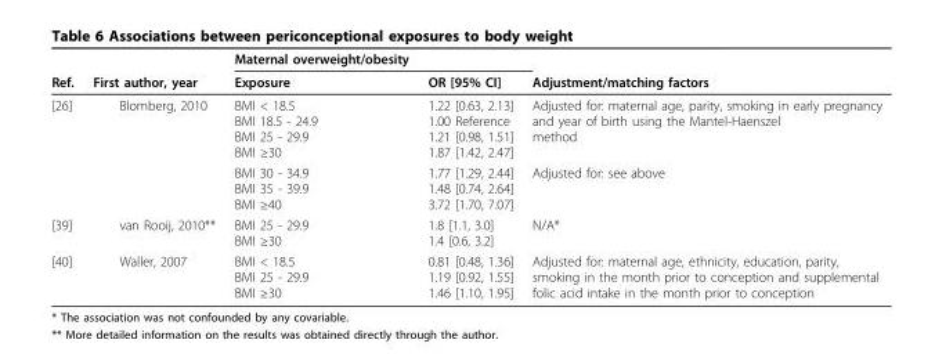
<table><thead><tr><td rowspan="2">Ref.</td><td rowspan="2">First author, year</td><td rowspan="2">Maternal overweight/obesity Exposure</td><td rowspan="2">OR [95% CI]</td><td rowspan="2">Adjustment/matching factors</td></tr><tr></tr></thead><tbody><tr><td rowspan="2">[26]</td><td>Blomberg, 2010</td><td>BMI &lt; 18.5 BMI 18.5 - 24.9 BMI 25 - 29.9 BMI ≥30</td><td>1.22 [0.63, 2.13] 1.00 Reference 1.21 [0.98, 1.51] 1.87 [1.42, 2.47]</td><td>Adjusted for: maternal age, parity, smoking in early pregnancy and year of birth using the Mantel-Haenszel method</td></tr><tr><td></td><td>BMI 30 - 34.9 BMI 35 - 39.9 BMI ≥40</td><td>1.77 [1.29, 2.44] 1.48 [0.74, 2.64] 3.72 [1.70, 7.07]</td><td>Adjusted for: see above</td></tr><tr><td>[39]</td><td>van Rooij, 2010**</td><td>BMI 25 - 29.9 BMI ≥30</td><td>1.8 [1.1, 3.0] 1.4 [0.6, 3.2]</td><td>N/A*</td></tr><tr><td>[40]</td><td>Waller, 2007</td><td>BMI &lt; 18.5 BMI 25 - 29.9 BMI ≥30</td><td>0.81 [0.48, 1.36] 1.19 [0.92, 1.55] 1.46 [1.10, 1.95]</td><td>Adjusted for: maternal age, ethnicity, education, parity, smoking in the month prior to conception and supplemental folic acid intake in the month prior to conception</td></tr></tbody></table>